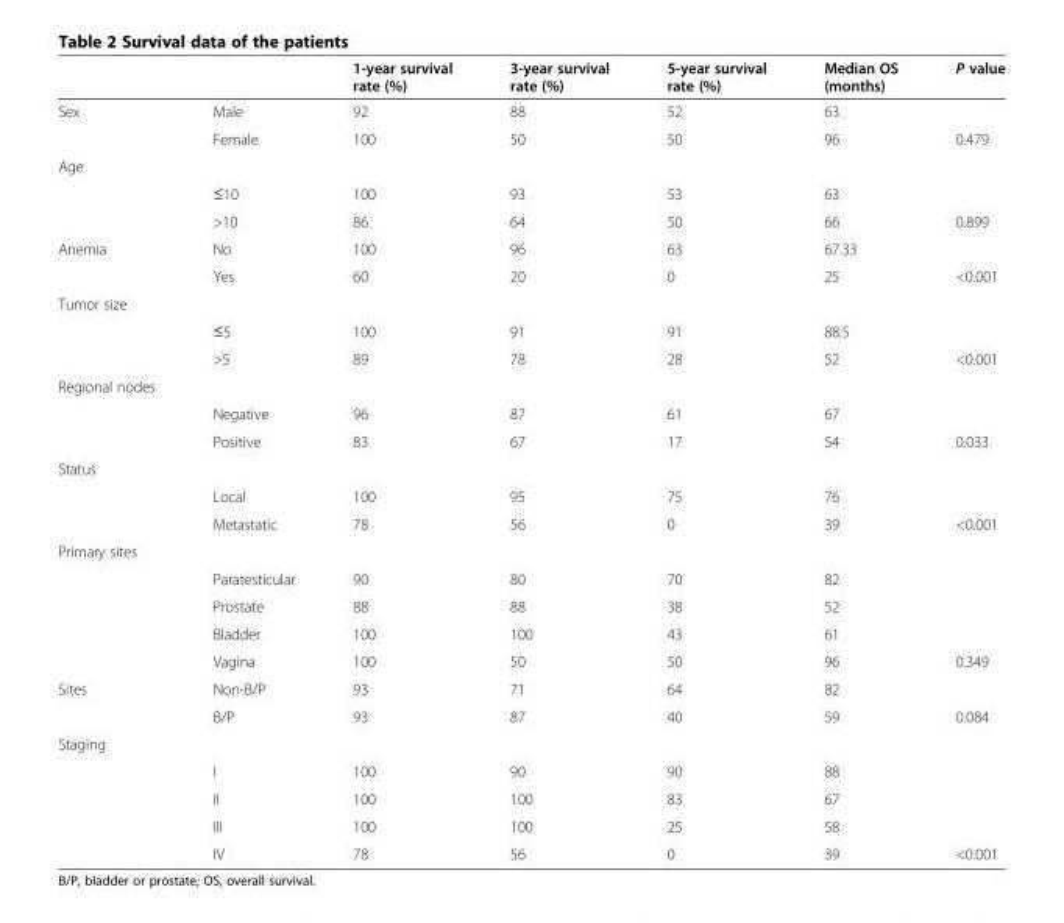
<table><thead><tr><td></td><td></td><td>1-year survival rate (%)</td><td>3-year survival rate (%)</td><td>5-year survival rate (%)</td><td>Median OS (months)</td><td>P value</td></tr></thead><tbody><tr><td rowspan="2">Sex</td><td>Male</td><td>92</td><td>88</td><td>52</td><td>63</td><td></td></tr><tr><td>Female</td><td>100</td><td>50</td><td>50</td><td>96</td><td>0.479</td></tr><tr><td colspan="7">Age</td></tr><tr><td></td><td>≤10</td><td>100</td><td>93</td><td>53</td><td>63</td><td></td></tr><tr><td></td><td>&gt;10</td><td>86</td><td>64</td><td>50</td><td>66</td><td>0.899</td></tr><tr><td rowspan="2">Anemia</td><td>No</td><td>100</td><td>96</td><td>63</td><td>67.33</td><td></td></tr><tr><td>Yes</td><td>60</td><td>20</td><td>0</td><td>25</td><td>&lt;0.001</td></tr><tr><td colspan="7">Tumor size</td></tr><tr><td></td><td>≤5</td><td>100</td><td>91</td><td>91</td><td>88.5</td><td></td></tr><tr><td></td><td>&gt;5</td><td>89</td><td>78</td><td>28</td><td>52</td><td>&lt;0.001</td></tr><tr><td colspan="7">Regional nodes</td></tr><tr><td></td><td>Negative</td><td>96</td><td>87</td><td>61</td><td>67</td><td></td></tr><tr><td></td><td>Positive</td><td>83</td><td>67</td><td>17</td><td>54</td><td>0.033</td></tr><tr><td colspan="7">Status</td></tr><tr><td></td><td>Local</td><td>100</td><td>95</td><td>75</td><td>76</td><td></td></tr><tr><td></td><td>Metastatic</td><td>78</td><td>56</td><td>0</td><td>39</td><td>&lt;0.001</td></tr><tr><td colspan="7">Primary sites</td></tr><tr><td></td><td>Paratesticular</td><td>90</td><td>80</td><td>70</td><td>82</td><td></td></tr><tr><td></td><td>Prostate</td><td>88</td><td>88</td><td>38</td><td>52</td><td></td></tr><tr><td></td><td>Bladder</td><td>100</td><td>100</td><td>43</td><td>61</td><td></td></tr><tr><td></td><td>Vagina</td><td>100</td><td>50</td><td>50</td><td>96</td><td>0.349</td></tr><tr><td rowspan="2">Sites</td><td>Non-B/P</td><td>93</td><td>71</td><td>64</td><td>82</td><td></td></tr><tr><td>B/P</td><td>93</td><td>87</td><td>40</td><td>59</td><td>0.084</td></tr><tr><td colspan="7">Staging</td></tr><tr><td></td><td>I</td><td>100</td><td>90</td><td>90</td><td>88</td><td></td></tr><tr><td></td><td>II</td><td>100</td><td>100</td><td>83</td><td>67</td><td></td></tr><tr><td></td><td>III</td><td>100</td><td>100</td><td>25</td><td>58</td><td></td></tr><tr><td></td><td>IV</td><td>78</td><td>56</td><td>0</td><td>39</td><td>&lt;0.001</td></tr></tbody></table>